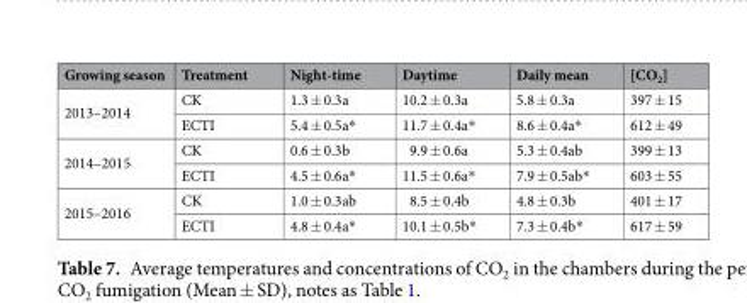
<table><thead><tr><td>Growing season</td><td>Treatment</td><td>Night-time</td><td>Daytime</td><td>Daily mean</td><td>[CO<sub>2</sub>]</td></tr></thead><tbody><tr><td rowspan="2">2013–2014</td><td>CK</td><td>1.3 ± 0.3a</td><td>10.2 ± 0.3a</td><td>5.8 ± 0.3a</td><td>397 ± 15</td></tr><tr><td>ECTI</td><td>5.4 ± 0.5a*</td><td>11.7 ± 0.4a*</td><td>8.6 ± 0.4a*</td><td>612 ± 49</td></tr><tr><td rowspan="2">2014–2015</td><td>CK</td><td>0.6 ± 0.3b</td><td>9.9 ± 0.6a</td><td>5.3 ± 0.4ab</td><td>399 ± 13</td></tr><tr><td>ECTI</td><td>4.5 ± 0.6a*</td><td>11.5 ± 0.6a*</td><td>7.9 ± 0.5ab*</td><td>603 ± 55</td></tr><tr><td rowspan="2">2015–2016</td><td>CK</td><td>1.0 ± 0.3ab</td><td>8.5 ± 0.4b</td><td>4.8 ± 0.3b</td><td>401 ± 17</td></tr><tr><td>ECTI</td><td>4.8 ± 0.4a*</td><td>10.1 ± 0.5b*</td><td>7.3 ± 0.4b*</td><td>617 ± 59</td></tr></tbody></table>